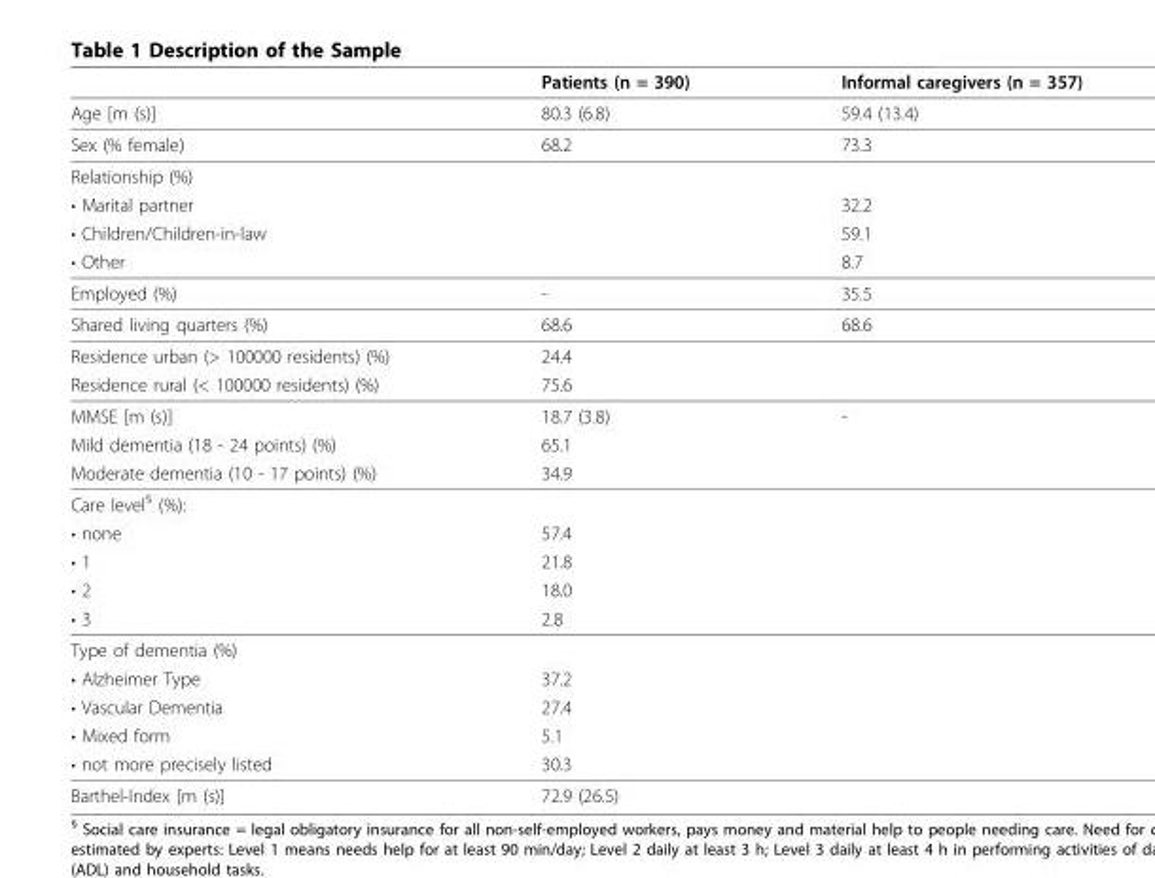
<table><thead><tr><td></td><td>Patients (n = 390)</td><td>Informal caregivers (n = 357)</td></tr></thead><tbody><tr><td>Age [m (s)]</td><td>80.3 (6.8)</td><td>59.4 (13.4)</td></tr><tr><td>Sex (% female)</td><td>68.2</td><td>73.3</td></tr><tr><td colspan="3">Relationship (%)</td></tr><tr><td>• Marital partner</td><td></td><td>32.2</td></tr><tr><td>• Children/Children-in-law</td><td></td><td>59.1</td></tr><tr><td>• Other</td><td></td><td>8.7</td></tr><tr><td>Employed (%)</td><td>-</td><td>35.5</td></tr><tr><td>Shared living quarters (%)</td><td>68.6</td><td>68.6</td></tr><tr><td>Residence urban (&gt; 100000 residents) (%)</td><td>24.4</td><td></td></tr><tr><td>Residence rural (&lt; 100000 residents) (%)</td><td>75.6</td><td></td></tr><tr><td>MMSE [m (s)]</td><td>18.7 (3.8)</td><td>-</td></tr><tr><td>Mild dementia (18 - 24 points) (%)</td><td>65.1</td><td></td></tr><tr><td>Moderate dementia (10 - 17 points) (%)</td><td>34.9</td><td></td></tr><tr><td colspan="3">Care level<sup>§</sup> (%):</td></tr><tr><td>• none</td><td>57.4</td><td></td></tr><tr><td>• 1</td><td>21.8</td><td></td></tr><tr><td>• 2</td><td>18.0</td><td></td></tr><tr><td>• 3</td><td>2.8</td><td></td></tr><tr><td colspan="3">Type of dementia (%)</td></tr><tr><td>• Alzheimer Type</td><td>37.2</td><td></td></tr><tr><td>• Vascular Dementia</td><td>27.4</td><td></td></tr><tr><td>• Mixed form</td><td>5.1</td><td></td></tr><tr><td>• not more precisely listed</td><td>30.3</td><td></td></tr><tr><td>Barthel-Index [m (s)]</td><td>72.9 (26.5)</td><td></td></tr></tbody></table>